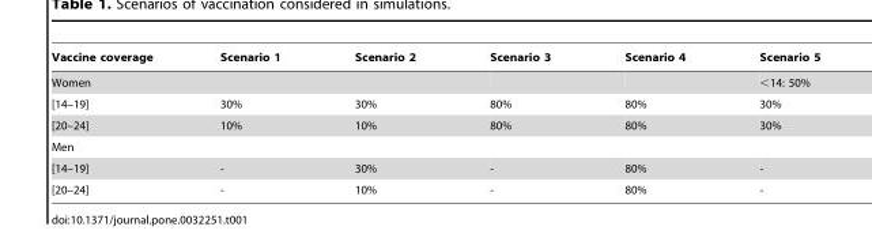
<table><thead><tr><td>Vaccine coverage</td><td>Scenario 1</td><td>Scenario 2</td><td>Scenario 3</td><td>Scenario 4</td><td>Scenario 5</td></tr></thead><tbody><tr><td>Women</td><td></td><td></td><td></td><td></td><td>&lt;14: 50%</td></tr><tr><td>[14–19]</td><td>30%</td><td>30%</td><td>80%</td><td>80%</td><td>30%</td></tr><tr><td>[20–24]</td><td>10%</td><td>10%</td><td>80%</td><td>80%</td><td>30%</td></tr><tr><td colspan="6">Men</td></tr><tr><td>[14–19]</td><td>-</td><td>30%</td><td>-</td><td>80%</td><td>-</td></tr><tr><td>[20–24]</td><td>-</td><td>10%</td><td>-</td><td>80%</td><td>-</td></tr></tbody></table>